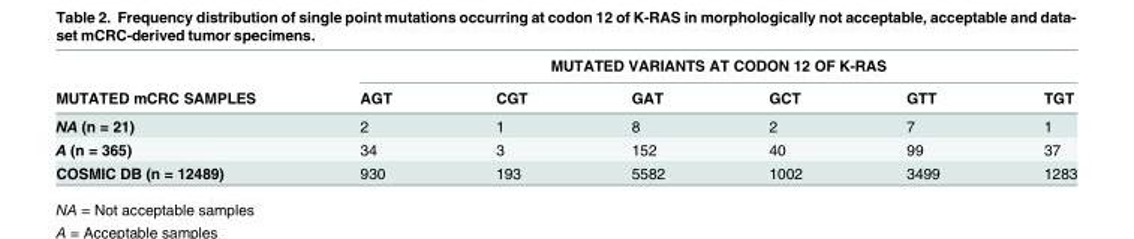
<table><thead><tr><td rowspan="2">MUTATED mCRC SAMPLES</td><td colspan="6">MUTATED VARIANTS AT CODON 12 OF K-RAS</td></tr><tr><td>AGT</td><td>CGT</td><td>GAT</td><td>GCT</td><td>GTT</td><td>TGT</td></tr></thead><tbody><tr><td>NA (n = 21)</td><td>2</td><td>1</td><td>8</td><td>2</td><td>7</td><td>1</td></tr><tr><td>A (n = 365)</td><td>34</td><td>3</td><td>152</td><td>40</td><td>99</td><td>37</td></tr><tr><td>COSMIC DB (n = 12489)</td><td>930</td><td>193</td><td>5582</td><td>1002</td><td>3499</td><td>1283</td></tr></tbody></table>